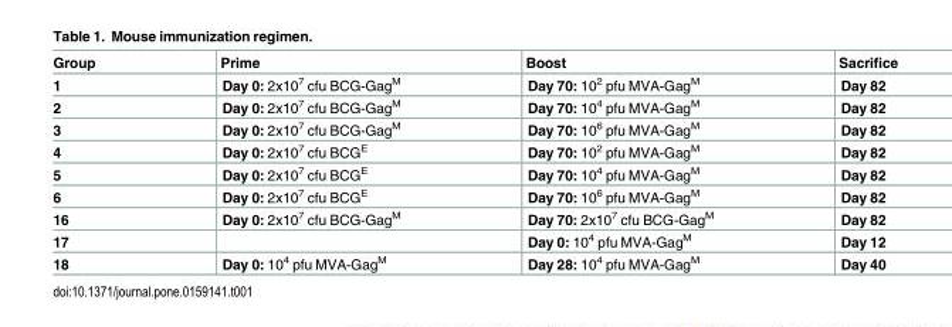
<table><thead><tr><td>Group</td><td>Prime</td><td>Boost</td><td>Sacrifice</td></tr></thead><tbody><tr><td>1</td><td>Day 0: 2x10<sup>7</sup> cfu BCG-Gag<sup>M</sup></td><td>Day 70: 10<sup>2</sup> pfu MVA-Gag<sup>M</sup></td><td>Day 82</td></tr><tr><td>2</td><td>Day 0: 2x10<sup>7</sup> cfu BCG-Gag<sup>M</sup></td><td>Day 70: 10<sup>4</sup> pfu MVA-Gag<sup>M</sup></td><td>Day 82</td></tr><tr><td>3</td><td>Day 0: 2x10<sup>7</sup> cfu BCG-Gag<sup>M</sup></td><td>Day 70: 10<sup>6</sup> pfu MVA-Gag<sup>M</sup></td><td>Day 82</td></tr><tr><td>4</td><td>Day 0: 2x10<sup>7</sup> cfu BCG<sup>E</sup></td><td>Day 70: 10<sup>2</sup> pfu MVA-Gag<sup>M</sup></td><td>Day 82</td></tr><tr><td>5</td><td>Day 0: 2x10<sup>7</sup> cfu BCG<sup>E</sup></td><td>Day 70: 10<sup>4</sup> pfu MVA-Gag<sup>M</sup></td><td>Day 82</td></tr><tr><td>6</td><td>Day 0: 2x10<sup>7</sup> cfu BCG<sup>E</sup></td><td>Day 70: 10<sup>6</sup> pfu MVA-Gag<sup>M</sup></td><td>Day 82</td></tr><tr><td>16</td><td>Day 0: 2x10<sup>7</sup> cfu BCG-Gag<sup>M</sup></td><td>Day 70: 2x10<sup>7</sup> cfu BCG-Gag<sup>M</sup></td><td>Day 82</td></tr><tr><td>17</td><td></td><td>Day 0: 10<sup>4</sup> pfu MVA-Gag<sup>M</sup></td><td>Day 12</td></tr><tr><td>18</td><td>Day 0: 10<sup>4</sup> pfu MVA-Gag<sup>M</sup></td><td>Day 28: 10<sup>4</sup> pfu MVA-Gag<sup>M</sup></td><td>Day 40</td></tr></tbody></table>